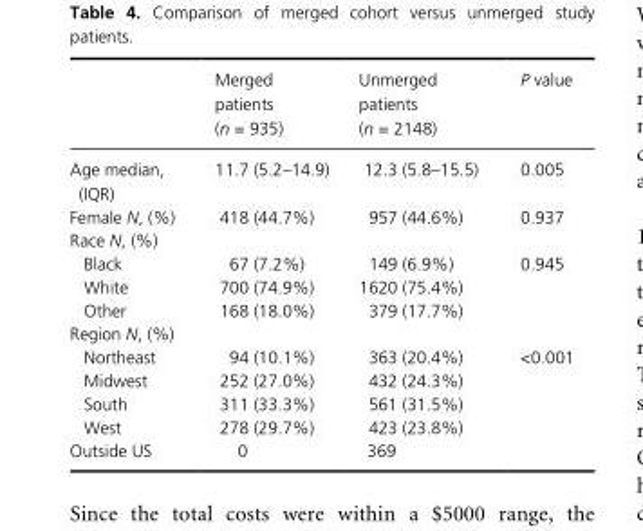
<table><thead><tr><td></td><td>Merged patients (n = 935)</td><td>Unmerged patients (n = 2148)</td><td>P value</td></tr></thead><tbody><tr><td>Age median, (IQR)</td><td>11.7 (5.2–14.9)</td><td>12.3 (5.8–15.5)</td><td>0.005</td></tr><tr><td>Female N, (%)</td><td>418 (44.7%)</td><td>957 (44.6%)</td><td>0.937</td></tr><tr><td colspan="4">Race N, (%)</td></tr><tr><td>Black</td><td>67 (7.2%)</td><td>149 (6.9%)</td><td rowspan="3">0.945</td></tr><tr><td>White</td><td>700 (74.9%)</td><td>1620 (75.4%)</td></tr><tr><td>Other</td><td>168 (18.0%)</td><td>379 (17.7%)</td></tr><tr><td colspan="4">Region N, (%)</td></tr><tr><td>Northeast</td><td>94 (10.1%)</td><td>363 (20.4%)</td><td rowspan="4">&lt;0.001</td></tr><tr><td>Midwest</td><td>252 (27.0%)</td><td>432 (24.3%)</td></tr><tr><td>South</td><td>311 (33.3%)</td><td>561 (31.5%)</td></tr><tr><td>West</td><td>278 (29.7%)</td><td>423 (23.8%)</td></tr><tr><td>Outside US</td><td>0</td><td>369</td><td></td></tr></tbody></table>